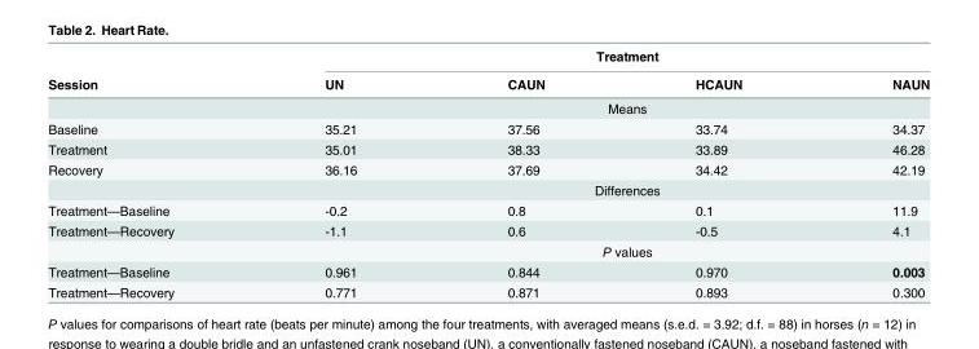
<table><thead><tr><td rowspan="2">Session</td><td colspan="4">Treatment</td></tr><tr><td>UN</td><td>CAUN</td><td>HCAUN</td><td>NAUN</td></tr></thead><tbody><tr><td></td><td colspan="4">Means</td></tr><tr><td>Baseline</td><td>35.21</td><td>37.56</td><td>33.74</td><td>34.37</td></tr><tr><td>Treatment</td><td>35.01</td><td>38.33</td><td>33.89</td><td>46.28</td></tr><tr><td rowspan="2">Recovery</td><td>36.16</td><td>37.69</td><td>34.42</td><td>42.19</td></tr><tr><td colspan="4">Differences</td></tr><tr><td>Treatment—Baseline</td><td>-0.2</td><td>0.8</td><td>0.1</td><td>11.9</td></tr><tr><td rowspan="2">Treatment—Recovery</td><td>-1.1</td><td>0.6</td><td>-0.5</td><td>4.1</td></tr><tr><td colspan="4">P values</td></tr><tr><td>Treatment—Baseline</td><td>0.961</td><td>0.844</td><td>0.970</td><td>0.003</td></tr><tr><td>Treatment—Recovery</td><td>0.771</td><td>0.871</td><td>0.893</td><td>0.300</td></tr></tbody></table>